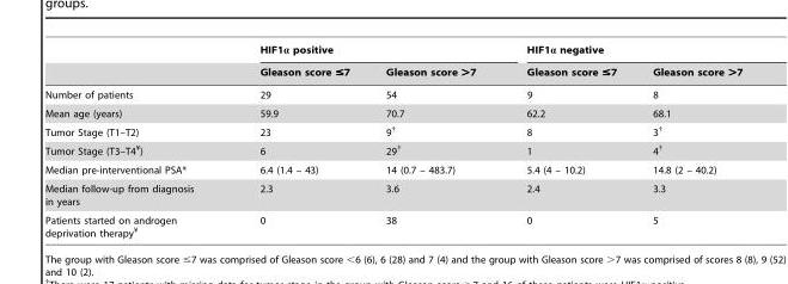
<table><thead><tr><td rowspan="2"></td><td colspan="2">HIF1α positive</td><td colspan="2">HIF1α negative</td></tr><tr><td>Gleason score ≤7</td><td>Gleason score &gt;7</td><td>Gleason score ≤7</td><td>Gleason score &gt;7</td></tr></thead><tbody><tr><td>Number of patients</td><td>29</td><td>54</td><td>9</td><td>8</td></tr><tr><td>Mean age (years)</td><td>59.9</td><td>70.7</td><td>62.2</td><td>68.1</td></tr><tr><td>Tumor Stage (T1–T2)</td><td>23</td><td>9†</td><td>8</td><td>3†</td></tr><tr><td>Tumor Stage (T3–T4¥)</td><td>6</td><td>29†</td><td>1</td><td>4†</td></tr><tr><td>Median pre-interventional PSA*</td><td>6.4 (1.4 – 43)</td><td>14 (0.7 – 483.7)</td><td>5.4 (4 – 10.2)</td><td>14.8 (2 – 40.2)</td></tr><tr><td>Median follow-up from diagnosis in years</td><td>2.3</td><td>3.6</td><td>2.4</td><td>3.3</td></tr><tr><td>Patients started on androgen deprivation therapy¥</td><td>0</td><td>38</td><td>0</td><td>5</td></tr></tbody></table>